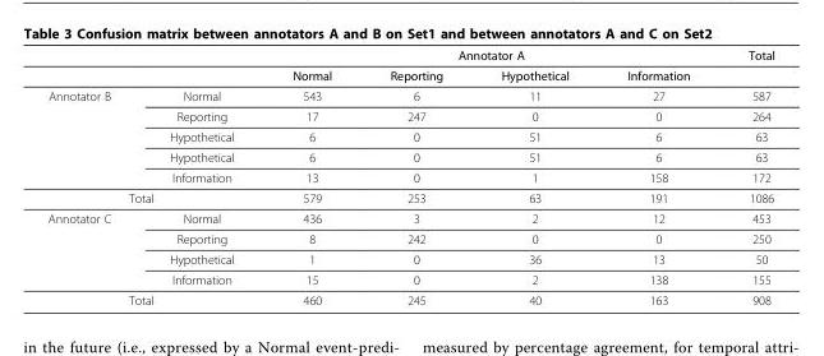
<table><thead><tr><td rowspan="2"></td><td rowspan="2"></td><td colspan="4">Annotator A</td><td rowspan="2">Total</td></tr><tr><td>Normal</td><td>Reporting</td><td>Hypothetical</td><td>Information</td></tr></thead><tbody><tr><td rowspan="5">Annotator B</td><td>Normal</td><td>543</td><td>6</td><td>11</td><td>27</td><td>587</td></tr><tr><td>Reporting</td><td>17</td><td>247</td><td>0</td><td>0</td><td>264</td></tr><tr><td>Hypothetical</td><td>6</td><td>0</td><td>51</td><td>6</td><td>63</td></tr><tr><td>Hypothetical</td><td>6</td><td>0</td><td>51</td><td>6</td><td>63</td></tr><tr><td>Information</td><td>13</td><td>0</td><td>1</td><td>158</td><td>172</td></tr><tr><td colspan="2">Total</td><td>579</td><td>253</td><td>63</td><td>191</td><td>1086</td></tr><tr><td rowspan="4">Annotator C</td><td>Normal</td><td>436</td><td>3</td><td>2</td><td>12</td><td>453</td></tr><tr><td>Reporting</td><td>8</td><td>242</td><td>0</td><td>0</td><td>250</td></tr><tr><td>Hypothetical</td><td>1</td><td>0</td><td>36</td><td>13</td><td>50</td></tr><tr><td>Information</td><td>15</td><td>0</td><td>2</td><td>138</td><td>155</td></tr><tr><td colspan="2">Total</td><td>460</td><td>245</td><td>40</td><td>163</td><td>908</td></tr></tbody></table>